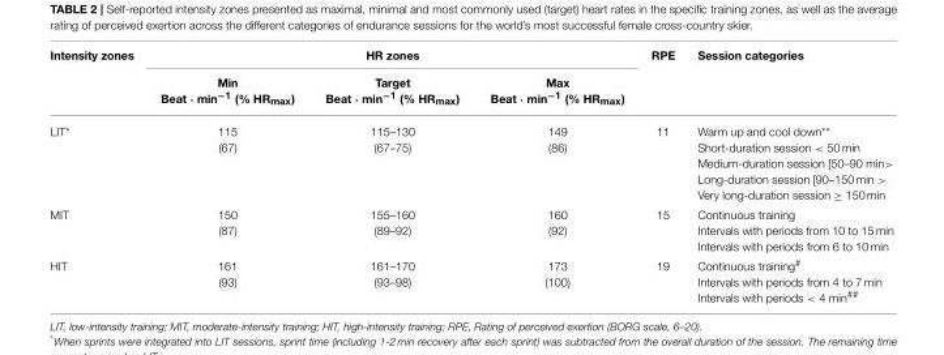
<table><thead><tr><td rowspan="2">Intensity zones</td><td colspan="3">HR zones</td><td rowspan="2">RPE</td><td rowspan="2">Session categories</td></tr><tr><td>Min Beat · min<sup>−1</sup> (% HR<sub>max</sub>)</td><td>Target Beat · min<sup>−1</sup> (% HR<sub>max</sub>)</td><td>Max Beat · min<sup>−1</sup> (% HR<sub>max</sub>)</td></tr></thead><tbody><tr><td>LIT*</td><td>115 (67)</td><td>115–130 (67–75)</td><td>149 (86)</td><td>11</td><td>Warm up and cool down** Short-duration session &lt; 50 min Medium-duration session [50–90 min&gt; Long-duration session [90–150 min &gt; Very long-duration session ≥ 150 min</td></tr><tr><td>MIT</td><td>150 (87)</td><td>155–160 (89–92)</td><td>160 (92)</td><td>15</td><td>Continuous training Intervals with periods from 10 to 15 min Intervals with periods from 6 to 10 min</td></tr><tr><td>HIT</td><td>161 (93)</td><td>161–170 (93–98)</td><td>173 (100)</td><td>19</td><td>Continuous training<sup>#</sup> Intervals with periods from 4 to 7 min Intervals with periods &lt; 4 min<sup>##</sup></td></tr></tbody></table>